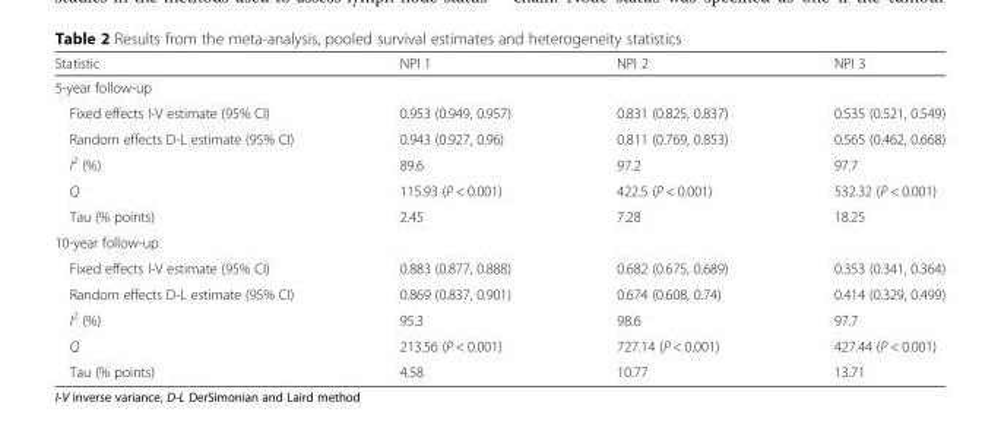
<table><thead><tr><td>Statistic</td><td>NPI 1</td><td>NPI 2</td><td>NPI 3</td></tr></thead><tbody><tr><td colspan="4">5-year follow-up</td></tr><tr><td>Fixed effects I-V estimate (95% CI)</td><td>0.953 (0.949, 0.957)</td><td>0.831 (0.825, 0.837)</td><td>0.535 (0.521, 0.549)</td></tr><tr><td>Random effects D-L estimate (95% CI)</td><td>0.943 (0.927, 0.96)</td><td>0.811 (0.769, 0.853)</td><td>0.565 (0.462, 0.668)</td></tr><tr><td>I<sup>2</sup> (%)</td><td>89.6</td><td>97.2</td><td>97.7</td></tr><tr><td>Q</td><td>115.93 (P &lt; 0.001)</td><td>422.5 (P &lt; 0.001)</td><td>532.32 (P &lt; 0.001)</td></tr><tr><td>Tau (% points)</td><td>2.45</td><td>7.28</td><td>18.25</td></tr><tr><td colspan="4">10-year follow-up</td></tr><tr><td>Fixed effects I-V estimate (95% CI)</td><td>0.883 (0.877, 0.888)</td><td>0.682 (0.675, 0.689)</td><td>0.353 (0.341, 0.364)</td></tr><tr><td>Random effects D-L estimate (95% CI)</td><td>0.869 (0.837, 0.901)</td><td>0.674 (0.608, 0.74)</td><td>0.414 (0.329, 0.499)</td></tr><tr><td>I<sup>2</sup> (%)</td><td>95.3</td><td>98.6</td><td>97.7</td></tr><tr><td>Q</td><td>213.56 (P &lt; 0.001)</td><td>727.14 (P &lt; 0.001)</td><td>427.44 (P &lt; 0.001)</td></tr><tr><td>Tau (% points)</td><td>4.58</td><td>10.77</td><td>13.71</td></tr></tbody></table>